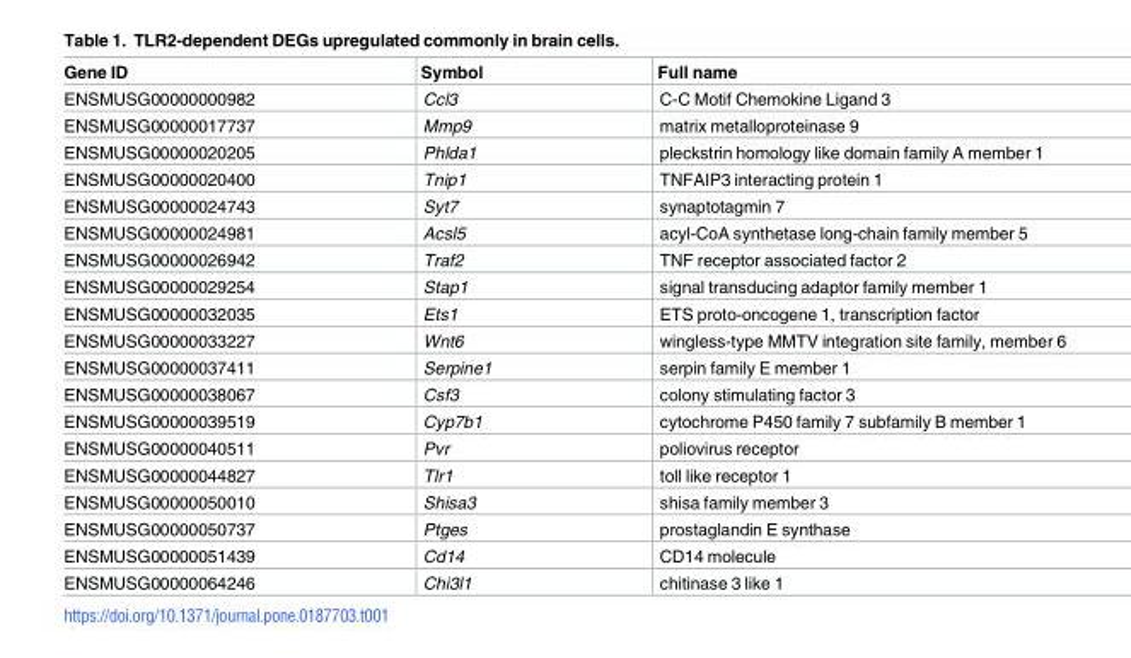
<table><thead><tr><td>Gene ID</td><td>Symbol</td><td>Full name</td></tr></thead><tbody><tr><td>ENSMUSG00000000982</td><td>Ccl3</td><td>C-C Motif Chemokine Ligand 3</td></tr><tr><td>ENSMUSG00000017737</td><td>Mmp9</td><td>matrix metalloproteinase 9</td></tr><tr><td>ENSMUSG00000020205</td><td>Phlda1</td><td>pleckstrin homology like domain family A member 1</td></tr><tr><td>ENSMUSG00000020400</td><td>Tnip1</td><td>TNFAIP3 interacting protein 1</td></tr><tr><td>ENSMUSG00000024743</td><td>Syt7</td><td>synaptotagmin 7</td></tr><tr><td>ENSMUSG00000024981</td><td>Acsl5</td><td>acyl-CoA synthetase long-chain family member 5</td></tr><tr><td>ENSMUSG00000026942</td><td>Traf2</td><td>TNF receptor associated factor 2</td></tr><tr><td>ENSMUSG00000029254</td><td>Stap1</td><td>signal transducing adaptor family member 1</td></tr><tr><td>ENSMUSG00000032035</td><td>Ets1</td><td>ETS proto-oncogene 1, transcription factor</td></tr><tr><td>ENSMUSG00000033227</td><td>Wnt6</td><td>wingless-type MMTV integration site family, member 6</td></tr><tr><td>ENSMUSG00000037411</td><td>Serpine1</td><td>serpin family E member 1</td></tr><tr><td>ENSMUSG00000038067</td><td>Csf3</td><td>colony stimulating factor 3</td></tr><tr><td>ENSMUSG00000039519</td><td>Cyp7b1</td><td>cytochrome P450 family 7 subfamily B member 1</td></tr><tr><td>ENSMUSG00000040511</td><td>Pvr</td><td>poliovirus receptor</td></tr><tr><td>ENSMUSG00000044827</td><td>Tlr1</td><td>toll like receptor 1</td></tr><tr><td>ENSMUSG00000050010</td><td>Shisa3</td><td>shisa family member 3</td></tr><tr><td>ENSMUSG00000050737</td><td>Ptges</td><td>prostaglandin E synthase</td></tr><tr><td>ENSMUSG00000051439</td><td>Cd14</td><td>CD14 molecule</td></tr><tr><td>ENSMUSG00000064246</td><td>Chi3l1</td><td>chitinase 3 like 1</td></tr></tbody></table>